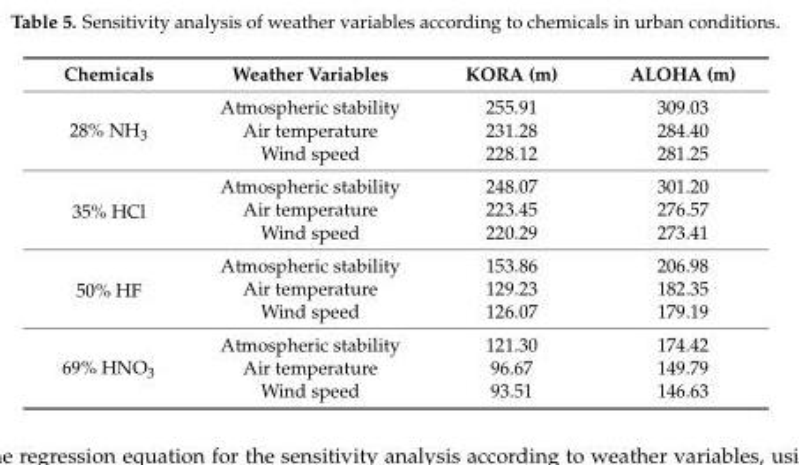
<table><thead><tr><td>Chemicals</td><td>Weather Variables</td><td>KORA (m)</td><td>ALOHA (m)</td></tr></thead><tbody><tr><td rowspan="3">28% NH<sub>3</sub></td><td>Atmospheric stability</td><td>255.91</td><td>309.03</td></tr><tr><td>Air temperature</td><td>231.28</td><td>284.40</td></tr><tr><td>Wind speed</td><td>228.12</td><td>281.25</td></tr><tr><td rowspan="3">35% HCl</td><td>Atmospheric stability</td><td>248.07</td><td>301.20</td></tr><tr><td>Air temperature</td><td>223.45</td><td>276.57</td></tr><tr><td>Wind speed</td><td>220.29</td><td>273.41</td></tr><tr><td rowspan="3">50% HF</td><td>Atmospheric stability</td><td>153.86</td><td>206.98</td></tr><tr><td>Air temperature</td><td>129.23</td><td>182.35</td></tr><tr><td>Wind speed</td><td>126.07</td><td>179.19</td></tr><tr><td rowspan="3">69% HNO<sub>3</sub></td><td>Atmospheric stability</td><td>121.30</td><td>174.42</td></tr><tr><td>Air temperature</td><td>96.67</td><td>149.79</td></tr><tr><td>Wind speed</td><td>93.51</td><td>146.63</td></tr></tbody></table>